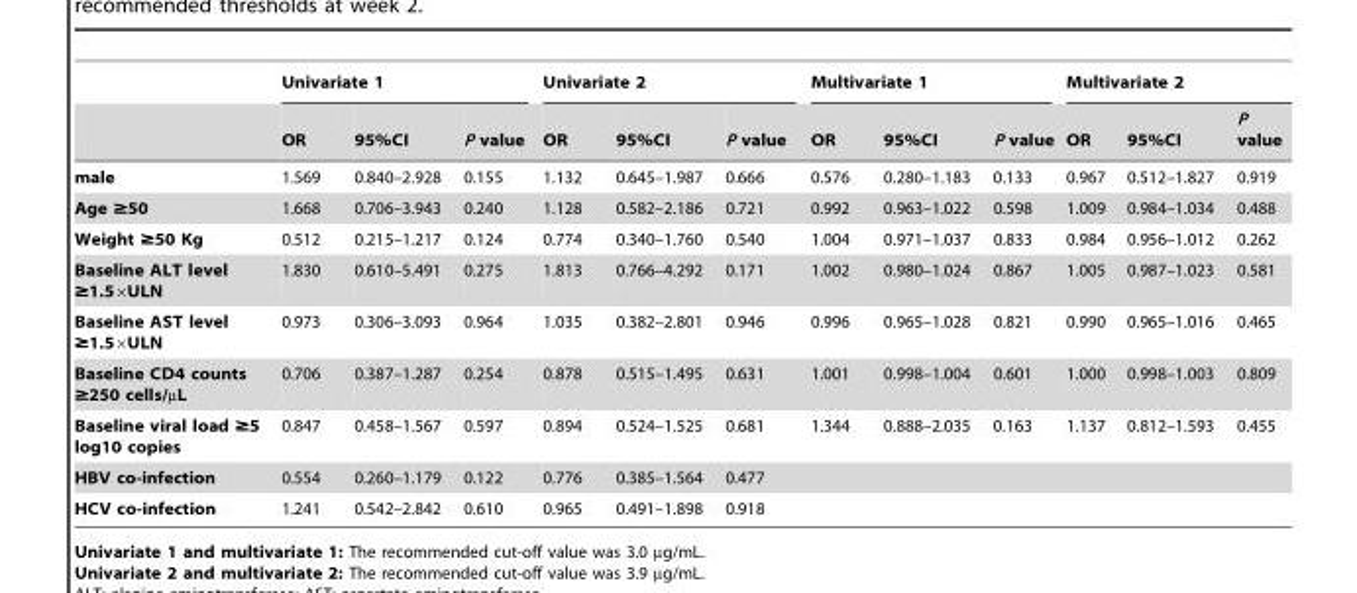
<table><thead><tr><td rowspan="2"></td><td colspan="3">Univariate 1</td><td colspan="3">Univariate 2</td><td colspan="3">Multivariate 1</td><td colspan="3">Multivariate 2</td></tr><tr><td>OR</td><td>95%CI</td><td>P value</td><td>OR</td><td>95%CI</td><td>P value</td><td>OR</td><td>95%CI</td><td>P value</td><td>OR</td><td>95%CI</td><td>P value</td></tr></thead><tbody><tr><td>male</td><td>1.569</td><td>0.840–2.928</td><td>0.155</td><td>1.132</td><td>0.645–1.987</td><td>0.666</td><td>0.576</td><td>0.280–1.183</td><td>0.133</td><td>0.967</td><td>0.512–1.827</td><td>0.919</td></tr><tr><td>Age ≥50</td><td>1.668</td><td>0.706–3.943</td><td>0.240</td><td>1.128</td><td>0.582–2.186</td><td>0.721</td><td>0.992</td><td>0.963–1.022</td><td>0.598</td><td>1.009</td><td>0.984–1.034</td><td>0.488</td></tr><tr><td>Weight ≥50 Kg</td><td>0.512</td><td>0.215–1.217</td><td>0.124</td><td>0.774</td><td>0.340–1.760</td><td>0.540</td><td>1.004</td><td>0.971–1.037</td><td>0.833</td><td>0.984</td><td>0.956–1.012</td><td>0.262</td></tr><tr><td>Baseline ALT level ≥1.5×ULN</td><td>1.830</td><td>0.610–5.491</td><td>0.275</td><td>1.813</td><td>0.766–4.292</td><td>0.171</td><td>1.002</td><td>0.980–1.024</td><td>0.867</td><td>1.005</td><td>0.987–1.023</td><td>0.581</td></tr><tr><td>Baseline AST level ≥1.5×ULN</td><td>0.973</td><td>0.306–3.093</td><td>0.964</td><td>1.035</td><td>0.382–2.801</td><td>0.946</td><td>0.996</td><td>0.965–1.028</td><td>0.821</td><td>0.990</td><td>0.965–1.016</td><td>0.465</td></tr><tr><td>Baseline CD4 counts ≥250 cells/µL</td><td>0.706</td><td>0.387–1.287</td><td>0.254</td><td>0.878</td><td>0.515–1.495</td><td>0.631</td><td>1.001</td><td>0.998–1.004</td><td>0.601</td><td>1.000</td><td>0.998–1.003</td><td>0.809</td></tr><tr><td>Baseline viral load ≥5 log10 copies</td><td>0.847</td><td>0.458–1.567</td><td>0.597</td><td>0.894</td><td>0.524–1.525</td><td>0.681</td><td>1.344</td><td>0.888–2.035</td><td>0.163</td><td>1.137</td><td>0.812–1.593</td><td>0.455</td></tr><tr><td>HBV co-infection</td><td>0.554</td><td>0.260–1.179</td><td>0.122</td><td>0.776</td><td>0.385–1.564</td><td>0.477</td><td></td><td></td><td></td><td></td><td></td><td></td></tr><tr><td>HCV co-infection</td><td>1.241</td><td>0.542–2.842</td><td>0.610</td><td>0.965</td><td>0.491–1.898</td><td>0.918</td><td></td><td></td><td></td><td></td><td></td><td></td></tr></tbody></table>